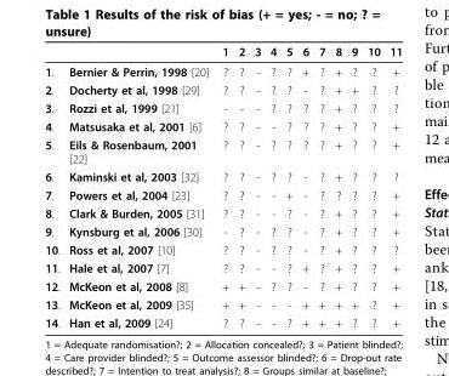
<table><thead><tr><td></td><td></td><td>1</td><td>2</td><td>3</td><td>4</td><td>5</td><td>6</td><td>7</td><td>8</td><td>9</td><td>10</td><td>11</td></tr></thead><tbody><tr><td>1.</td><td>Bernier &amp; Perrin, 1998 [20]</td><td>?</td><td>?</td><td>-</td><td>?</td><td>?</td><td>+</td><td>?</td><td>+</td><td>?</td><td>?</td><td>+</td></tr><tr><td>2.</td><td>Docherty et al, 1998 [29]</td><td>?</td><td>?</td><td>-</td><td>?</td><td>?</td><td>-</td><td>?</td><td>+</td><td>+</td><td>?</td><td>?</td></tr><tr><td>3.</td><td>Rozzi et al, 1999 [21]</td><td>-</td><td>-</td><td>-</td><td>?</td><td>?</td><td>?</td><td>?</td><td>+</td><td>?</td><td>?</td><td>?</td></tr><tr><td>4.</td><td>Matsusaka et al, 2001 [6]</td><td>?</td><td>?</td><td>-</td><td>-</td><td>?</td><td>?</td><td>?</td><td>+</td><td>?</td><td>?</td><td>+</td></tr><tr><td>5.</td><td>Eils &amp; Rosenbaum, 2001 [22]</td><td>?</td><td>?</td><td>-</td><td>?</td><td>?</td><td>?</td><td>?</td><td>+</td><td>?</td><td>?</td><td>+</td></tr><tr><td>6.</td><td>Kaminski et al, 2003 [32]</td><td>?</td><td>?</td><td>-</td><td>?</td><td>?</td><td>-</td><td>?</td><td>+</td><td>?</td><td>?</td><td>?</td></tr><tr><td>7.</td><td>Powers et al, 2004 [23]</td><td>?</td><td>?</td><td>-</td><td>-</td><td>+</td><td>-</td><td>?</td><td>?</td><td>?</td><td>?</td><td>+</td></tr><tr><td>8.</td><td>Clark &amp; Burden, 2005 [31]</td><td>?</td><td>?</td><td>-</td><td>-</td><td>?</td><td>-</td><td>?</td><td>+</td><td>?</td><td>?</td><td>+</td></tr><tr><td>9.</td><td>Kynsburg et al, 2006 [30]</td><td>-</td><td>?</td><td>-</td><td>?</td><td>?</td><td>-</td><td>?</td><td>+</td><td>?</td><td>?</td><td>+</td></tr><tr><td>10.</td><td>Ross et al, 2007 [10]</td><td>?</td><td>?</td><td>-</td><td>?</td><td>?</td><td>-</td><td>?</td><td>+</td><td>?</td><td>?</td><td>?</td></tr><tr><td>11.</td><td>Hale et al, 2007 [7]</td><td>?</td><td>?</td><td>-</td><td>-</td><td>?</td><td>+</td><td>?</td><td>+</td><td>?</td><td>?</td><td>+</td></tr><tr><td>12.</td><td>McKeon et al, 2008 [8]</td><td>+</td><td>+</td><td>-</td><td>?</td><td>?</td><td>-</td><td>?</td><td>+</td><td>?</td><td>?</td><td>+</td></tr><tr><td>13.</td><td>McKeon et al, 2009 [35]</td><td>+</td><td>+</td><td>-</td><td>-</td><td>-</td><td>+</td><td>+</td><td>+</td><td>+</td><td>?</td><td>+</td></tr><tr><td>14.</td><td>Han et al, 2009 [24]</td><td>?</td><td>?</td><td>-</td><td>-</td><td>?</td><td>+</td><td>+</td><td>+</td><td>?</td><td>?</td><td>+</td></tr></tbody></table>